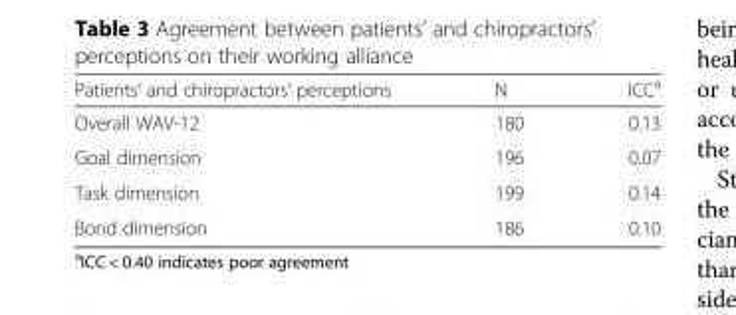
<table><thead><tr><td>Patients’ and chiropractors’ perceptions</td><td>N</td><td>ICC<sup>a</sup></td></tr></thead><tbody><tr><td>Overall WAV-12</td><td>180</td><td>0.13</td></tr><tr><td>Goal dimension</td><td>196</td><td>0.07</td></tr><tr><td>Task dimension</td><td>199</td><td>0.14</td></tr><tr><td>Bond dimension</td><td>186</td><td>0.10</td></tr></tbody></table>